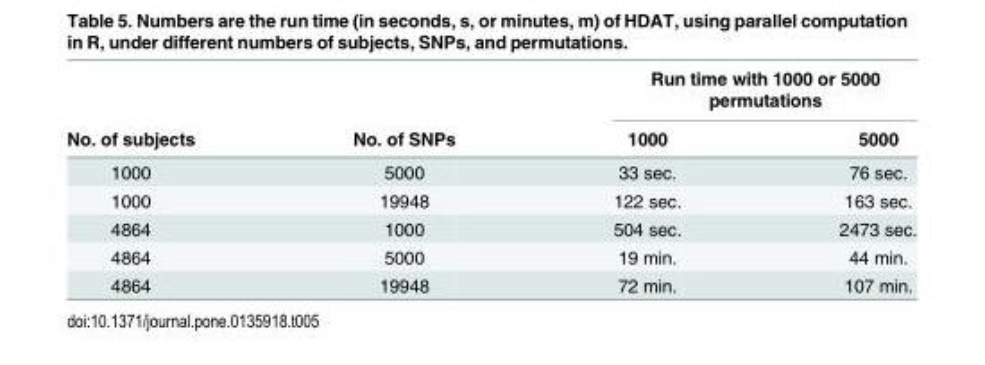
<table><thead><tr><td rowspan="2">No. of subjects</td><td rowspan="2">No. of SNPs</td><td colspan="2">Run time with 1000 or 5000 permutations</td></tr><tr><td>1000</td><td>5000</td></tr></thead><tbody><tr><td>1000</td><td>5000</td><td>33 sec.</td><td>76 sec.</td></tr><tr><td>1000</td><td>19948</td><td>122 sec.</td><td>163 sec.</td></tr><tr><td>4864</td><td>1000</td><td>504 sec.</td><td>2473 sec.</td></tr><tr><td>4864</td><td>5000</td><td>19 min.</td><td>44 min.</td></tr><tr><td>4864</td><td>19948</td><td>72 min.</td><td>107 min.</td></tr></tbody></table>